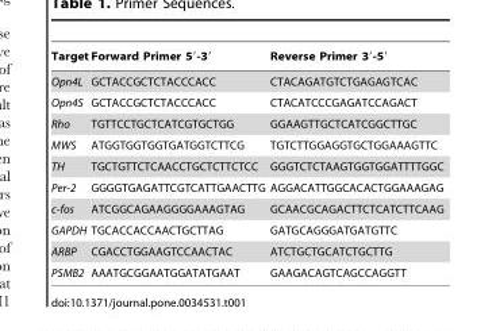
<table><thead><tr><td>Target</td><td>Forward Primer 5′-3′</td><td>Reverse Primer 3′-5′</td></tr></thead><tbody><tr><td>Opn4L</td><td>GCTACCGCTCTACCCACC</td><td>CTACAGATGTCTGAGAGTCAC</td></tr><tr><td>Opn4S</td><td>GCTACCGCTCTACCCACC</td><td>CTACATCCCGAGATCCAGACT</td></tr><tr><td>Rho</td><td>TGTTCCTGCTCATCGTGCTGG</td><td>GGAAGTTGCTCATCGGCTTGC</td></tr><tr><td>MWS</td><td>ATGGTGGTGGTGATGGTCTTCG</td><td>TGTCTTGGAGGTGCTGGAAAGTTC</td></tr><tr><td>TH</td><td>TGCTGTTCTCAACCTGCTCTTCTCC</td><td>GGGTCTCTAAGTGGTGGATTTTGGC</td></tr><tr><td>Per-2</td><td>GGGGTGAGATTCGTCATTGAACTTG</td><td>AGGACATTGGCACACTGGAAAGAG</td></tr><tr><td>c-fos</td><td>ATCGGCAGAAGGGGAAAGTAG</td><td>GCAACGCAGACTTCTCATCTTCAAG</td></tr><tr><td>GAPDH</td><td>TGCACCACCAACTGCTTAG</td><td>GATGCAGGGATGATGTTC</td></tr><tr><td>ARBP</td><td>CGACCTGGAAGTCCAACTAC</td><td>ATCTGCTGCATCTGCTTG</td></tr><tr><td>PSMB2</td><td>AAATGCGGAATGGATATGAAT</td><td>GAAGACAGTCAGCCAGGTT</td></tr></tbody></table>